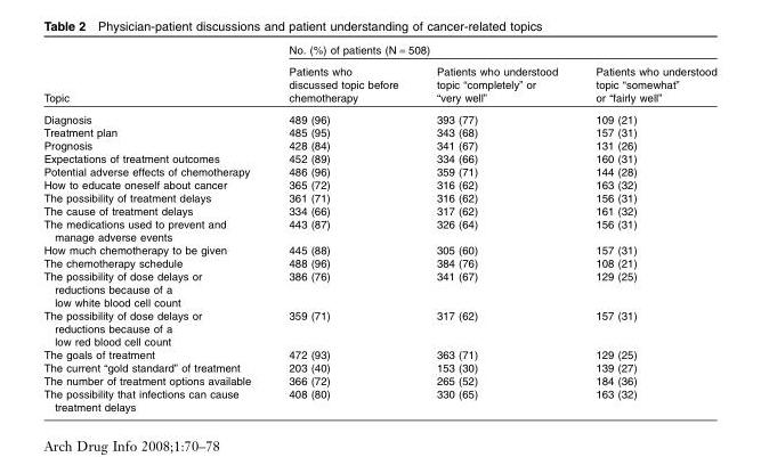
<table><thead><tr><td rowspan="2">Topic</td><td colspan="3">No. (%) of patients (N = 508)</td></tr><tr><td>Patients who discussed topic before chemotherapy</td><td>Patients who understood topic “completely” or “very well”</td><td>Patients who understood topic “somewhat” or “fairly well”</td></tr></thead><tbody><tr><td>Diagnosis</td><td>489 (96)</td><td>393 (77)</td><td>109 (21)</td></tr><tr><td>Treatment plan</td><td>485 (95)</td><td>343 (68)</td><td>157 (31)</td></tr><tr><td>Prognosis</td><td>428 (84)</td><td>341 (67)</td><td>131 (26)</td></tr><tr><td>Expectations of treatment outcomes</td><td>452 (89)</td><td>334 (66)</td><td>160 (31)</td></tr><tr><td>Potential adverse effects of chemotherapy</td><td>486 (96)</td><td>359 (71)</td><td>144 (28)</td></tr><tr><td>How to educate oneself about cancer</td><td>365 (72)</td><td>316 (62)</td><td>163 (32)</td></tr><tr><td>The possibility of treatment delays</td><td>361 (71)</td><td>316 (62)</td><td>156 (31)</td></tr><tr><td>The cause of treatment delays</td><td>334 (66)</td><td>317 (62)</td><td>161 (32)</td></tr><tr><td>The medications used to prevent and manage adverse events</td><td>443 (87)</td><td>326 (64)</td><td>156 (31)</td></tr><tr><td>How much chemotherapy to be given</td><td>445 (88)</td><td>305 (60)</td><td>157 (31)</td></tr><tr><td>The chemotherapy schedule</td><td>488 (96)</td><td>384 (76)</td><td>108 (21)</td></tr><tr><td>The possibility of dose delays or reductions because of a low white blood cell count</td><td>386 (76)</td><td>341 (67)</td><td>129 (25)</td></tr><tr><td>The possibility of dose delays or reductions because of a low red blood cell count</td><td>359 (71)</td><td>317 (62)</td><td>157 (31)</td></tr><tr><td>The goals of treatment</td><td>472 (93)</td><td>363 (71)</td><td>129 (25)</td></tr><tr><td>The current “gold standard” of treatment</td><td>203 (40)</td><td>153 (30)</td><td>139 (27)</td></tr><tr><td>The number of treatment options available</td><td>366 (72)</td><td>265 (52)</td><td>184 (36)</td></tr><tr><td>The possibility that infections can cause treatment delays</td><td>408 (80)</td><td>330 (65)</td><td>163 (32)</td></tr></tbody></table>